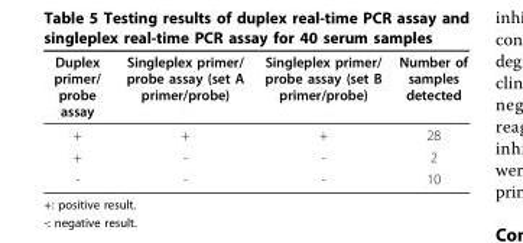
<table><thead><tr><td>Duplex primer/ probe assay</td><td>Singleplex primer/ probe assay (set A primer/probe)</td><td>Singleplex primer/ probe assay (set B primer/probe)</td><td>Number of samples detected</td></tr></thead><tbody><tr><td>+</td><td>+</td><td>+</td><td>28</td></tr><tr><td>+</td><td>-</td><td>-</td><td>2</td></tr><tr><td>-</td><td>-</td><td>-</td><td>10</td></tr></tbody></table>